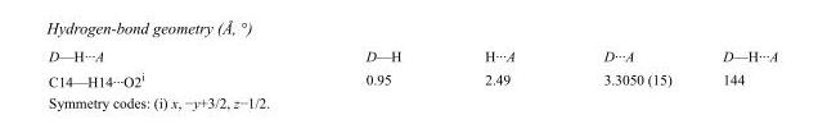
<table><tbody><tr><td>D—H···A</td><td>D—H</td><td>H···A</td><td>D···A</td><td>D—H···A</td></tr><tr><td>C14—H14···O2<sup>i</sup></td><td>0.95</td><td>2.49</td><td>3.3050 (15)</td><td>144</td></tr></tbody></table>